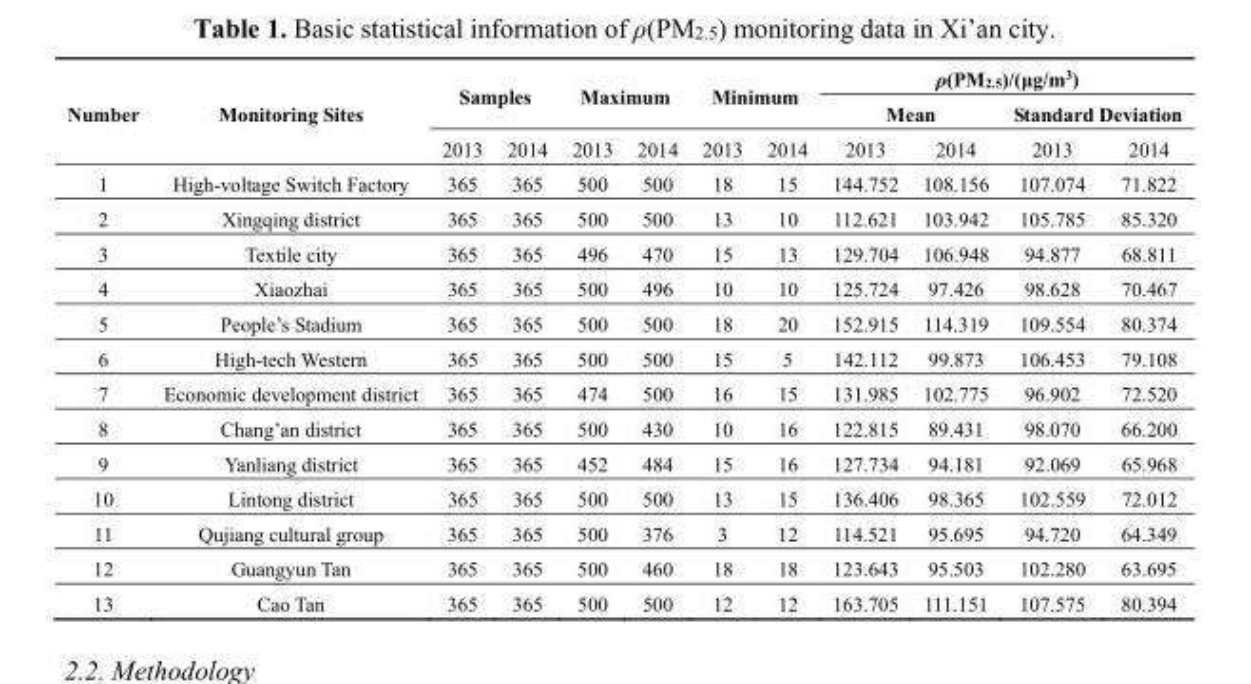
<table><thead><tr><td rowspan="3">Number</td><td rowspan="3">Monitoring Sites</td><td rowspan="2" colspan="2">Samples</td><td rowspan="2" colspan="2">Maximum</td><td rowspan="2" colspan="2">Minimum</td><td colspan="4">ρ(PM<sub>2.5</sub>)/(μg/m<sup>3</sup>)</td></tr><tr><td colspan="2">Mean</td><td colspan="2">Standard Deviation</td></tr><tr><td>2013</td><td>2014</td><td>2013</td><td>2014</td><td>2013</td><td>2014</td><td>2013</td><td>2014</td><td>2013</td><td>2014</td></tr></thead><tbody><tr><td>1</td><td>High-voltage Switch Factory</td><td>365</td><td>365</td><td>500</td><td>500</td><td>18</td><td>15</td><td>144.752</td><td>108.156</td><td>107.074</td><td>71.822</td></tr><tr><td>2</td><td>Xingqing district</td><td>365</td><td>365</td><td>500</td><td>500</td><td>13</td><td>10</td><td>112.621</td><td>103.942</td><td>105.785</td><td>85.320</td></tr><tr><td>3</td><td>Textile city</td><td>365</td><td>365</td><td>496</td><td>470</td><td>15</td><td>13</td><td>129.704</td><td>106.948</td><td>94.877</td><td>68.811</td></tr><tr><td>4</td><td>Xiaozhai</td><td>365</td><td>365</td><td>500</td><td>496</td><td>10</td><td>10</td><td>125.724</td><td>97.426</td><td>98.628</td><td>70.467</td></tr><tr><td>5</td><td>People’s Stadium</td><td>365</td><td>365</td><td>500</td><td>500</td><td>18</td><td>20</td><td>152.915</td><td>114.319</td><td>109.554</td><td>80.374</td></tr><tr><td>6</td><td>High-tech Western</td><td>365</td><td>365</td><td>500</td><td>500</td><td>15</td><td>5</td><td>142.112</td><td>99.873</td><td>106.453</td><td>79.108</td></tr><tr><td>7</td><td>Economic development district</td><td>365</td><td>365</td><td>474</td><td>500</td><td>16</td><td>15</td><td>131.985</td><td>102.775</td><td>96.902</td><td>72.520</td></tr><tr><td>8</td><td>Chang’an district</td><td>365</td><td>365</td><td>500</td><td>430</td><td>10</td><td>16</td><td>122.815</td><td>89.431</td><td>98.070</td><td>66.200</td></tr><tr><td>9</td><td>Yanliang district</td><td>365</td><td>365</td><td>452</td><td>484</td><td>15</td><td>16</td><td>127.734</td><td>94.181</td><td>92.069</td><td>65.968</td></tr><tr><td>10</td><td>Lintong district</td><td>365</td><td>365</td><td>500</td><td>500</td><td>13</td><td>15</td><td>136.406</td><td>98.365</td><td>102.559</td><td>72.012</td></tr><tr><td>11</td><td>Qujiang cultural group</td><td>365</td><td>365</td><td>500</td><td>376</td><td>3</td><td>12</td><td>114.521</td><td>95.695</td><td>94.720</td><td>64.349</td></tr><tr><td>12</td><td>Guangyun Tan</td><td>365</td><td>365</td><td>500</td><td>460</td><td>18</td><td>18</td><td>123.643</td><td>95.503</td><td>102.280</td><td>63.695</td></tr><tr><td>13</td><td>Cao Tan</td><td>365</td><td>365</td><td>500</td><td>500</td><td>12</td><td>12</td><td>163.705</td><td>111.151</td><td>107.575</td><td>80.394</td></tr></tbody></table>